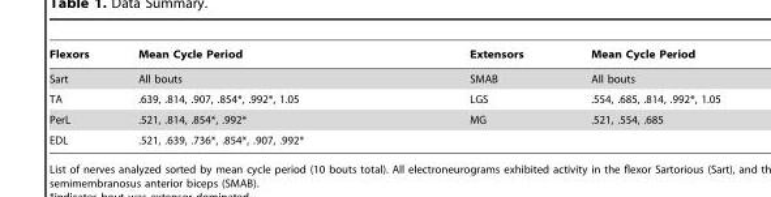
<table><thead><tr><td>Flexors</td><td>Mean Cycle Period</td><td>Extensors</td><td>Mean Cycle Period</td></tr></thead><tbody><tr><td>Sart</td><td>All bouts</td><td>SMAB</td><td>All bouts</td></tr><tr><td>TA</td><td>.639, .814, .907, .854*, .992*, 1.05</td><td>LGS</td><td>.554, .685, .814, .992*, 1.05</td></tr><tr><td>PerL</td><td>.521, .814, .854*, .992*</td><td>MG</td><td>.521, .554, .685</td></tr><tr><td>EDL</td><td>.521, .639, .736*, .854*, .907, .992*</td><td></td><td></td></tr></tbody></table>